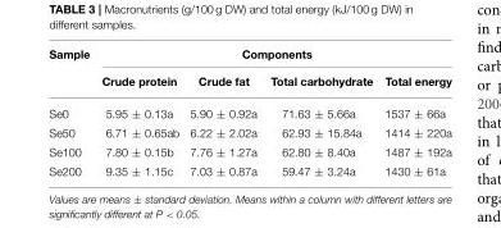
<table><thead><tr><td rowspan="2">Sample</td><td colspan="4">Components</td></tr><tr><td>Crude protein</td><td>Crude fat</td><td>Total carbohydrate</td><td>Total energy</td></tr></thead><tbody><tr><td>Se0</td><td>5.95 ± 0.13a</td><td>5.90 ± 0.92a</td><td>71.63 ± 5.66a</td><td>1537 ± 66a</td></tr><tr><td>Se50</td><td>6.71 ± 0.65ab</td><td>6.22 ± 2.02a</td><td>62.93 ± 15.84a</td><td>1414 ± 220a</td></tr><tr><td>Se100</td><td>7.80 ± 0.15b</td><td>7.76 ± 1.27a</td><td>62.80 ± 8.40a</td><td>1487 ± 192a</td></tr><tr><td>Se200</td><td>9.35 ± 1.15c</td><td>7.03 ± 0.87a</td><td>59.47 ± 3.24a</td><td>1430 ± 61a</td></tr></tbody></table>